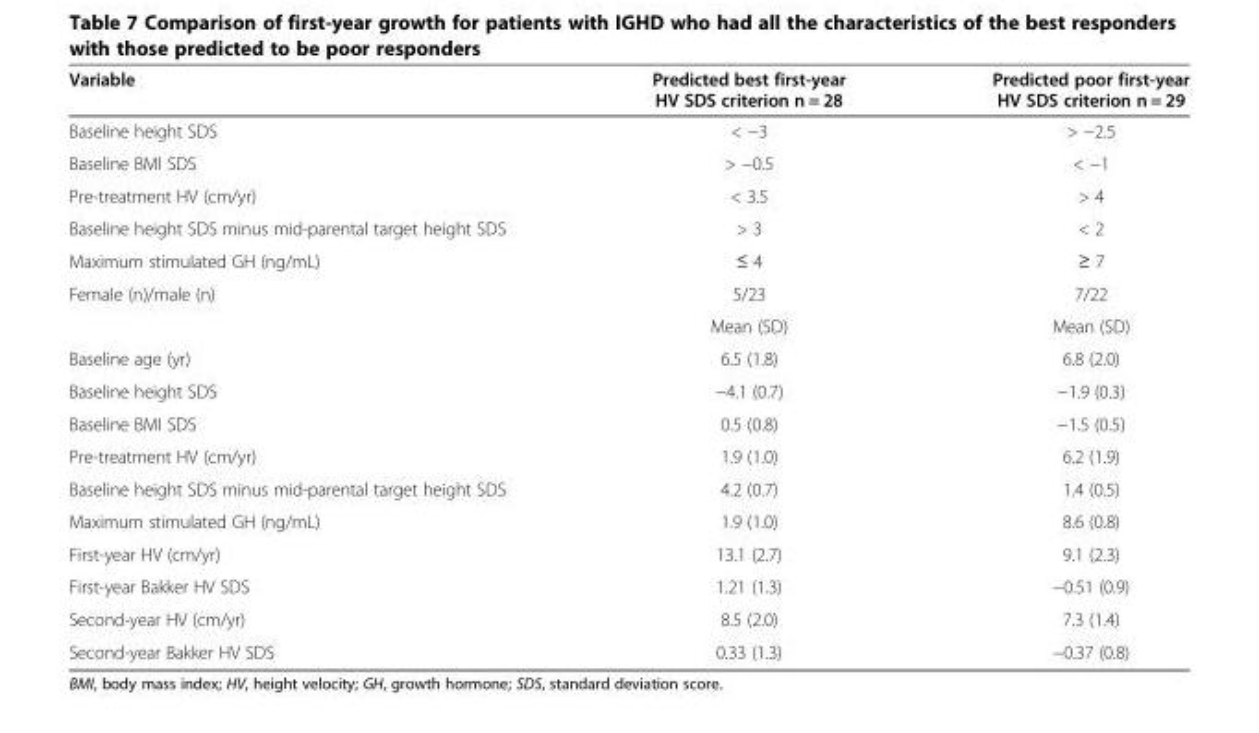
<table><thead><tr><td>Variable</td><td>Predicted best first-year HV SDS criterion n = 28</td><td>Predicted poor first-year HV SDS criterion n = 29</td></tr></thead><tbody><tr><td>Baseline height SDS</td><td>&lt; −3</td><td>&gt; −2.5</td></tr><tr><td>Baseline BMI SDS</td><td>&gt; −0.5</td><td>&lt; −1</td></tr><tr><td>Pre-treatment HV (cm/yr)</td><td>&lt; 3.5</td><td>&gt; 4</td></tr><tr><td>Baseline height SDS minus mid-parental target height SDS</td><td>&gt; 3</td><td>&lt; 2</td></tr><tr><td>Maximum stimulated GH (ng/mL)</td><td>≤ 4</td><td>≥ 7</td></tr><tr><td rowspan="2">Female (n)/male (n)</td><td>5/23</td><td>7/22</td></tr><tr><td>Mean (SD)</td><td>Mean (SD)</td></tr><tr><td>Baseline age (yr)</td><td>6.5 (1.8)</td><td>6.8 (2.0)</td></tr><tr><td>Baseline height SDS</td><td>−4.1 (0.7)</td><td>−1.9 (0.3)</td></tr><tr><td>Baseline BMI SDS</td><td>0.5 (0.8)</td><td>−1.5 (0.5)</td></tr><tr><td>Pre-treatment HV (cm/yr)</td><td>1.9 (1.0)</td><td>6.2 (1.9)</td></tr><tr><td>Baseline height SDS minus mid-parental target height SDS</td><td>4.2 (0.7)</td><td>1.4 (0.5)</td></tr><tr><td>Maximum stimulated GH (ng/mL)</td><td>1.9 (1.0)</td><td>8.6 (0.8)</td></tr><tr><td>First-year HV (cm/yr)</td><td>13.1 (2.7)</td><td>9.1 (2.3)</td></tr><tr><td>First-year Bakker HV SDS</td><td>1.21 (1.3)</td><td>−0.51 (0.9)</td></tr><tr><td>Second-year HV (cm/yr)</td><td>8.5 (2.0)</td><td>7.3 (1.4)</td></tr><tr><td>Second-year Bakker HV SDS</td><td>0.33 (1.3)</td><td>−0.37 (0.8)</td></tr></tbody></table>